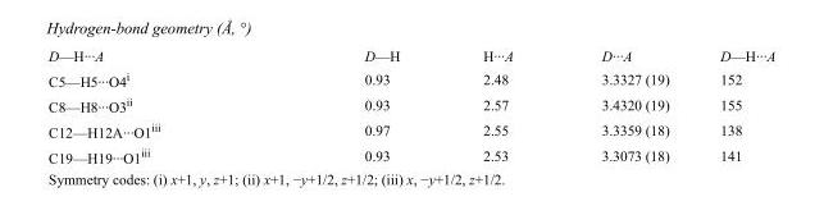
<table><tbody><tr><td>D—H···A</td><td>D—H</td><td>H···A</td><td>D···A</td><td>D—H···A</td></tr><tr><td>C5—H5···O4<sup>i</sup></td><td>0.93</td><td>2.48</td><td>3.3327 (19)</td><td>152</td></tr><tr><td>C8—H8···O3<sup>ii</sup></td><td>0.93</td><td>2.57</td><td>3.4320 (19)</td><td>155</td></tr><tr><td>C12—H12A···O1<sup>iii</sup></td><td>0.97</td><td>2.55</td><td>3.3359 (18)</td><td>138</td></tr><tr><td>C19—H19···O1<sup>iii</sup></td><td>0.93</td><td>2.53</td><td>3.3073 (18)</td><td>141</td></tr></tbody></table>